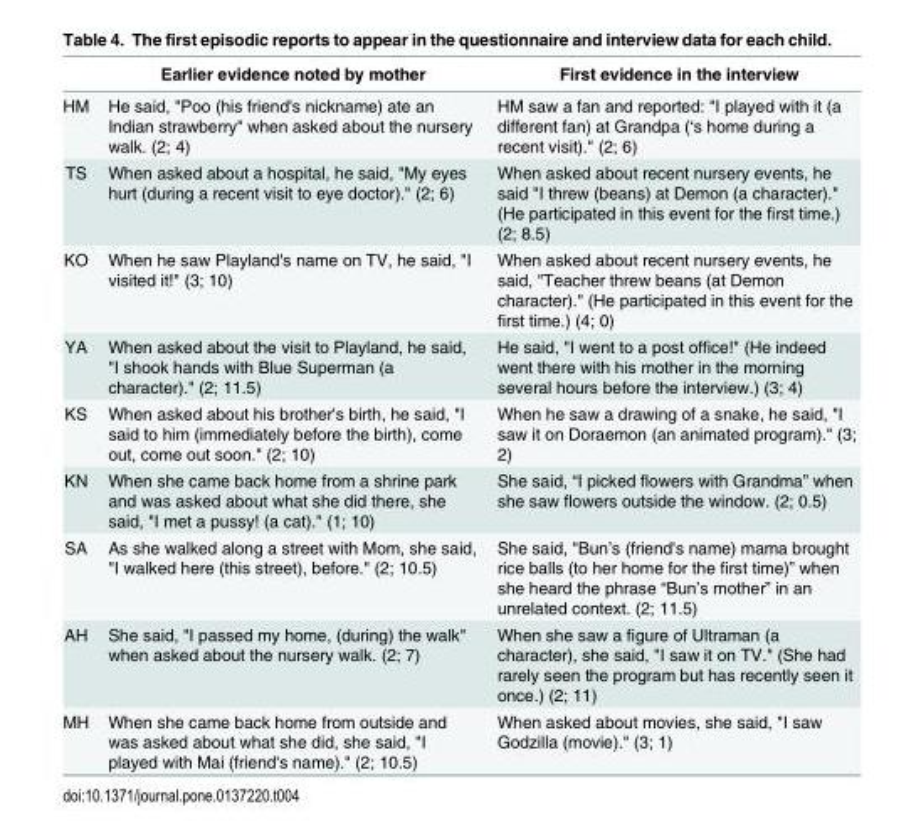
<table><thead><tr><td></td><td>Earlier evidence noted by mother</td><td>First evidence in the interview</td></tr></thead><tbody><tr><td>HM</td><td>He said, &quot;Poo (his friend&#x27;s nickname) ate an Indian strawberry&quot; when asked about the nursery walk. (2; 4)</td><td>HM saw a fan and reported: &quot;I played with it (a different fan) at Grandpa (‘s home during a recent visit).&quot; (2; 6)</td></tr><tr><td>TS</td><td>When asked about a hospital, he said, &quot;My eyes hurt (during a recent visit to eye doctor).&quot; (2; 6)</td><td>When asked about recent nursery events, he said &quot;I threw (beans) at Demon (a character).&quot; (He participated in this event for the first time.) (2; 8.5)</td></tr><tr><td>KO</td><td>When he saw Playland&#x27;s name on TV, he said, &quot;I visited it!&quot; (3; 10)</td><td>When asked about recent nursery events, he said, &quot;Teacher threw beans (at Demon character).&quot; (He participated in this event for the first time.) (4; 0)</td></tr><tr><td>YA</td><td>When asked about the visit to Playland, he said, &quot;I shook hands with Blue Superman (a character).&quot; (2; 11.5)</td><td>He said, &quot;I went to a post office!&quot; (He indeed went there with his mother in the morning several hours before the interview.) (3; 4)</td></tr><tr><td>KS</td><td>When asked about his brother&#x27;s birth, he said, &quot;I said to him (immediately before the birth), come out, come out soon.&quot; (2; 10)</td><td>When he saw a drawing of a snake, he said, &quot;I saw it on Doraemon (an animated program).&quot; (3; 2)</td></tr><tr><td>KN</td><td>When she came back home from a shrine park and was asked about what she did there, she said, &quot;I met a pussy! (a cat).&quot; (1; 10)</td><td>She said, “I picked flowers with Grandma” when she saw flowers outside the window. (2; 0.5)</td></tr><tr><td>SA</td><td>As she walked along a street with Mom, she said, &quot;I walked here (this street), before.&quot; (2; 10.5)</td><td>She said, &quot;Bun’s (friend&#x27;s name) mama brought rice balls (to her home for the first time)” when she heard the phrase “Bun’s mother” in an unrelated context. (2; 11.5)</td></tr><tr><td>AH</td><td>She said, &quot;I passed my home, (during) the walk&quot; when asked about the nursery walk. (2; 7)</td><td>When she saw a figure of Ultraman (a character), she said, &quot;I saw it on TV.&quot; (She had rarely seen the program but has recently seen it once.) (2; 11)</td></tr><tr><td>MH</td><td>When she came back home from outside and was asked about what she did, she said, &quot;I played with Mai (friend&#x27;s name).&quot; (2; 10.5)</td><td>When asked about movies, she said, &quot;I saw Godzilla (movie).&quot; (3; 1)</td></tr></tbody></table>